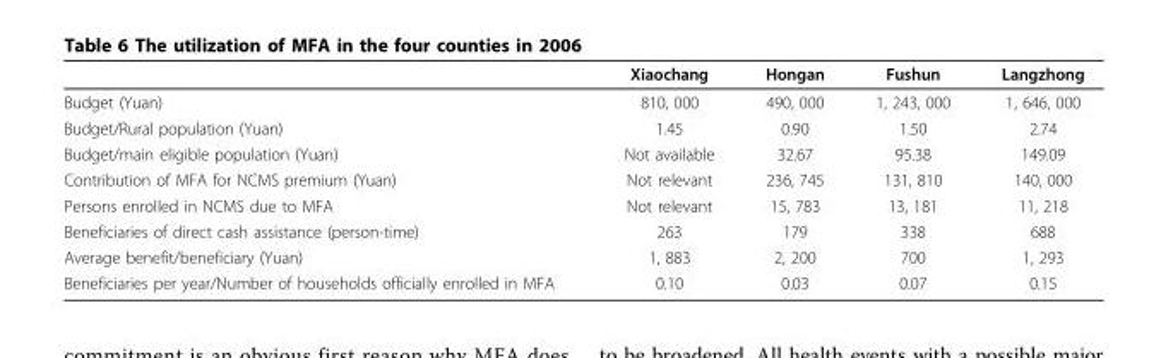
<table><thead><tr><td></td><td>Xiaochang</td><td>Hongan</td><td>Fushun</td><td>Langzhong</td></tr></thead><tbody><tr><td>Budget (Yuan)</td><td>810, 000</td><td>490, 000</td><td>1, 243, 000</td><td>1, 646, 000</td></tr><tr><td>Budget/Rural population (Yuan)</td><td>1.45</td><td>0.90</td><td>1.50</td><td>2.74</td></tr><tr><td>Budget/main eligible population (Yuan)</td><td>Not available</td><td>32.67</td><td>95.38</td><td>149.09</td></tr><tr><td>Contribution of MFA for NCMS premium (Yuan)</td><td>Not relevant</td><td>236, 745</td><td>131, 810</td><td>140, 000</td></tr><tr><td>Persons enrolled in NCMS due to MFA</td><td>Not relevant</td><td>15, 783</td><td>13, 181</td><td>11, 218</td></tr><tr><td>Beneficiaries of direct cash assistance (person-time)</td><td>263</td><td>179</td><td>338</td><td>688</td></tr><tr><td>Average benefit/beneficiary (Yuan)</td><td>1, 883</td><td>2, 200</td><td>700</td><td>1, 293</td></tr><tr><td>Beneficiaries per year/Number of households officially enrolled in MFA</td><td>0.10</td><td>0.03</td><td>0.07</td><td>0.15</td></tr></tbody></table>